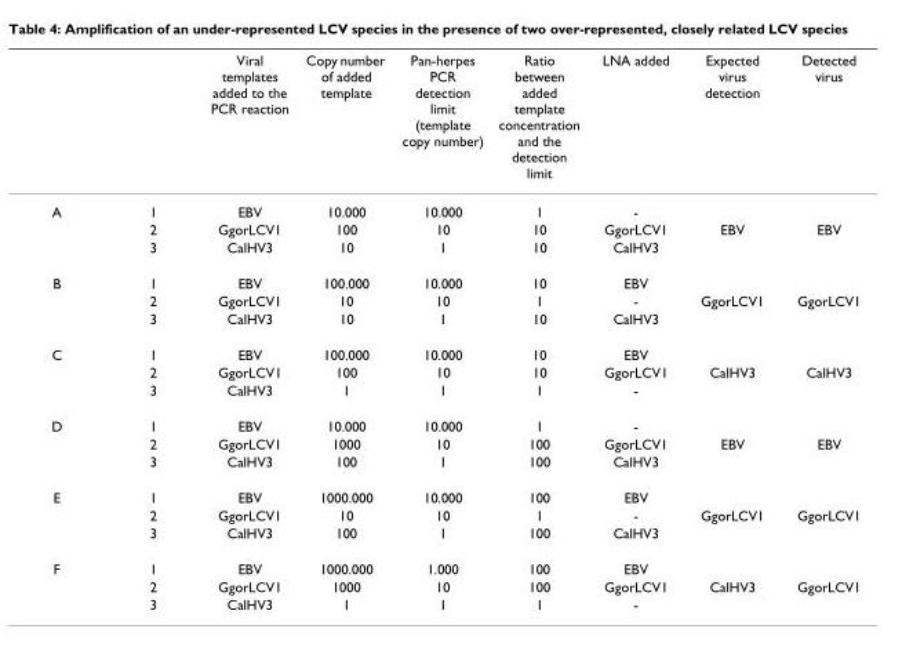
<table><thead><tr><td></td><td></td><td>Viral templates added to the PCR reaction</td><td>Copy number of added template</td><td>Pan-herpes PCR detection limit (template copy number)</td><td>Ratio between added template concentration and the detection limit</td><td>LNA added</td><td>Expected virus detection</td><td>Detected virus</td></tr></thead><tbody><tr><td rowspan="3">A</td><td>1</td><td>EBV</td><td>10.000</td><td>10.000</td><td>1</td><td>-</td><td></td><td></td></tr><tr><td>2</td><td>GgorLCV1</td><td>100</td><td>10</td><td>10</td><td>GgorLCV1</td><td>EBV</td><td>EBV</td></tr><tr><td>3</td><td>CalHV3</td><td>10</td><td>1</td><td>10</td><td>CalHV3</td><td></td><td></td></tr><tr><td rowspan="3">B</td><td>1</td><td>EBV</td><td>100.000</td><td>10.000</td><td>10</td><td>EBV</td><td></td><td></td></tr><tr><td>2</td><td>GgorLCV1</td><td>10</td><td>10</td><td>1</td><td>-</td><td>GgorLCV1</td><td>GgorLCV1</td></tr><tr><td>3</td><td>CalHV3</td><td>10</td><td>1</td><td>10</td><td>CalHV3</td><td></td><td></td></tr><tr><td rowspan="3">C</td><td>1</td><td>EBV</td><td>100.000</td><td>10.000</td><td>10</td><td>EBV</td><td></td><td></td></tr><tr><td>2</td><td>GgorLCV1</td><td>100</td><td>10</td><td>10</td><td>GgorLCV1</td><td>CalHV3</td><td>CalHV3</td></tr><tr><td>3</td><td>CalHV3</td><td>1</td><td>1</td><td>1</td><td>-</td><td></td><td></td></tr><tr><td rowspan="3">D</td><td>1</td><td>EBV</td><td>10.000</td><td>10.000</td><td>1</td><td>-</td><td></td><td></td></tr><tr><td>2</td><td>GgorLCV1</td><td>1000</td><td>10</td><td>100</td><td>GgorLCV1</td><td>EBV</td><td>EBV</td></tr><tr><td>3</td><td>CalHV3</td><td>100</td><td>1</td><td>100</td><td>CalHV3</td><td></td><td></td></tr><tr><td rowspan="3">E</td><td>1</td><td>EBV</td><td>1000.000</td><td>10.000</td><td>100</td><td>EBV</td><td></td><td></td></tr><tr><td>2</td><td>GgorLCV1</td><td>10</td><td>10</td><td>1</td><td>-</td><td>GgorLCV1</td><td>GgorLCV1</td></tr><tr><td>3</td><td>CalHV3</td><td>100</td><td>1</td><td>100</td><td>CalHV3</td><td></td><td></td></tr><tr><td rowspan="3">F</td><td>1</td><td>EBV</td><td>1000.000</td><td>1.000</td><td>100</td><td>EBV</td><td></td><td></td></tr><tr><td>2</td><td>GgorLCV1</td><td>1000</td><td>10</td><td>100</td><td>GgorLCV1</td><td>CalHV3</td><td>GgorLCV1</td></tr><tr><td>3</td><td>CalHV3</td><td>1</td><td>1</td><td>1</td><td>-</td><td></td><td></td></tr></tbody></table>